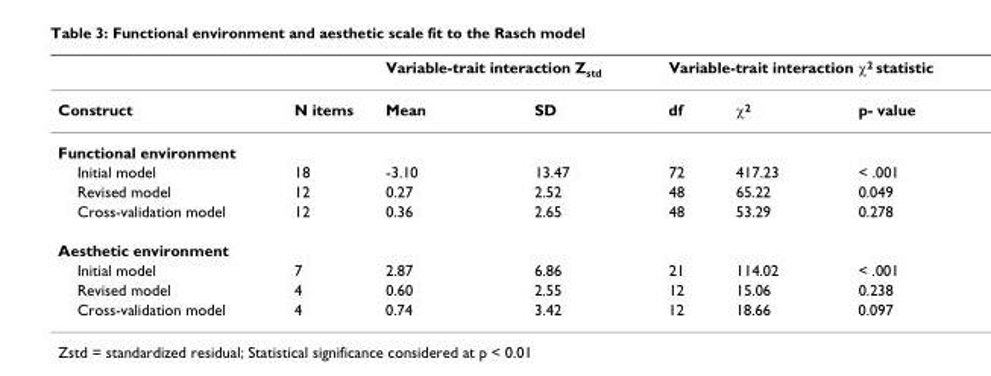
<table><thead><tr><td rowspan="2">Construct</td><td rowspan="2">N items</td><td colspan="2">Variable-trait interaction Z<sub>std</sub></td><td colspan="3">Variable-trait interaction χ<sup>2</sup> statistic</td></tr><tr><td>Mean</td><td>SD</td><td>df</td><td>χ<sup>2</sup></td><td>p- value</td></tr></thead><tbody><tr><td colspan="7">Functional environment</td></tr><tr><td>Initial model</td><td>18</td><td>-3.10</td><td>13.47</td><td>72</td><td>417.23</td><td>&lt; .001</td></tr><tr><td>Revised model</td><td>12</td><td>0.27</td><td>2.52</td><td>48</td><td>65.22</td><td>0.049</td></tr><tr><td>Cross-validation model</td><td>12</td><td>0.36</td><td>2.65</td><td>48</td><td>53.29</td><td>0.278</td></tr><tr><td colspan="7">Aesthetic environment</td></tr><tr><td>Initial model</td><td>7</td><td>2.87</td><td>6.86</td><td>21</td><td>114.02</td><td>&lt; .001</td></tr><tr><td>Revised model</td><td>4</td><td>0.60</td><td>2.55</td><td>12</td><td>15.06</td><td>0.238</td></tr><tr><td>Cross-validation model</td><td>4</td><td>0.74</td><td>3.42</td><td>12</td><td>18.66</td><td>0.097</td></tr></tbody></table>